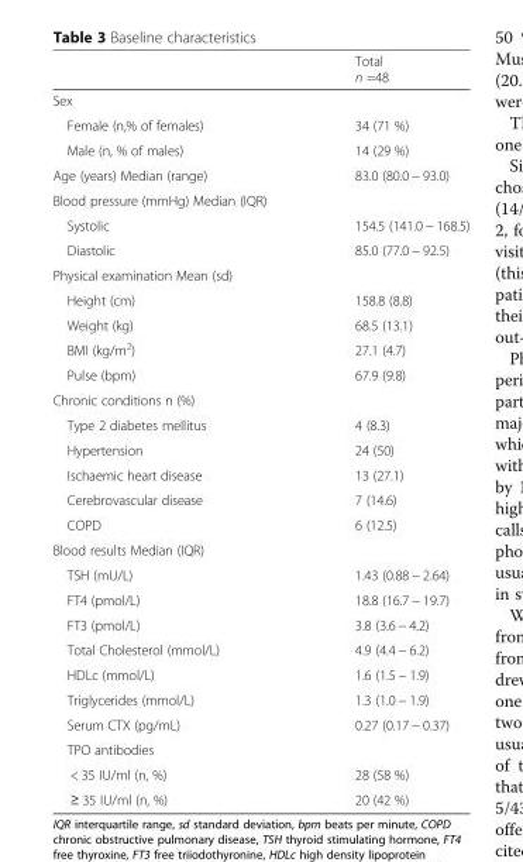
<table><thead><tr><td></td><td>Total n =48</td></tr></thead><tbody><tr><td colspan="2">Sex</td></tr><tr><td>Female (n,% of females)</td><td>34 (71 %)</td></tr><tr><td>Male (n, % of males)</td><td>14 (29 %)</td></tr><tr><td>Age (years) Median (range)</td><td>83.0 (80.0 − 93.0)</td></tr><tr><td colspan="2">Blood pressure (mmHg) Median (IQR)</td></tr><tr><td>Systolic</td><td>154.5 (141.0 − 168.5)</td></tr><tr><td>Diastolic</td><td>85.0 (77.0 − 92.5)</td></tr><tr><td colspan="2">Physical examination Mean (sd)</td></tr><tr><td>Height (cm)</td><td>158.8 (8.8)</td></tr><tr><td>Weight (kg)</td><td>68.5 (13.1)</td></tr><tr><td>BMI (kg/m<sup>2</sup>)</td><td>27.1 (4.7)</td></tr><tr><td>Pulse (bpm)</td><td>67.9 (9.8)</td></tr><tr><td colspan="2">Chronic conditions n (%)</td></tr><tr><td>Type 2 diabetes mellitus</td><td>4 (8.3)</td></tr><tr><td>Hypertension</td><td>24 (50)</td></tr><tr><td>Ischaemic heart disease</td><td>13 (27.1)</td></tr><tr><td>Cerebrovascular disease</td><td>7 (14.6)</td></tr><tr><td>COPD</td><td>6 (12.5)</td></tr><tr><td colspan="2">Blood results Median (IQR)</td></tr><tr><td>TSH (mU/L)</td><td>1.43 (0.88 − 2.64)</td></tr><tr><td>FT4 (pmol/L)</td><td>18.8 (16.7 − 19.7)</td></tr><tr><td>FT3 (pmol/L)</td><td>3.8 (3.6 − 4.2)</td></tr><tr><td>Total Cholesterol (mmol/L)</td><td>4.9 (4.4 − 6.2)</td></tr><tr><td>HDLc (mmol/L)</td><td>1.6 (1.5 − 1.9)</td></tr><tr><td>Triglycerides (mmol/L)</td><td>1.3 (1.0 − 1.9)</td></tr><tr><td>Serum CTX (pg/mL)</td><td>0.27 (0.17 − 0.37)</td></tr><tr><td colspan="2">TPO antibodies</td></tr><tr><td>&lt; 35 IU/ml (n, %)</td><td>28 (58 %)</td></tr><tr><td>≥ 35 IU/ml (n, %)</td><td>20 (42 %)</td></tr></tbody></table>